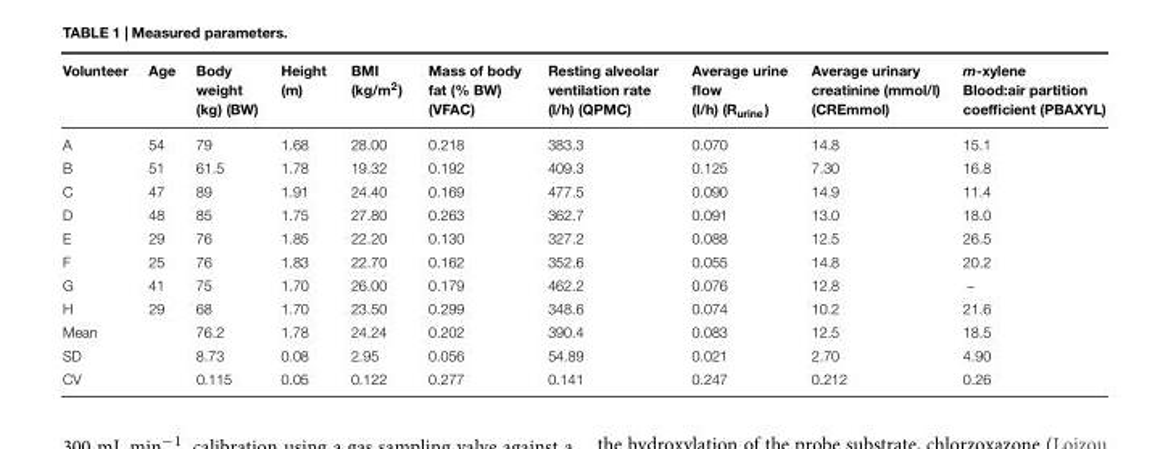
<table><thead><tr><td>Volunteer</td><td>Age</td><td>Body weight (kg) (BW)</td><td>Height (m)</td><td>BMI (kg/m<sup>2</sup>)</td><td>Mass of body fat (% BW) (VFAC)</td><td>Resting alveolar ventilation rate (l/h) (QPMC)</td><td>Average urine flow (l/h) (R<sub>urine</sub>)</td><td>Average urinary creatinine (mmol/l) (CREmmol)</td><td>m-xylene Blood:air partition coefficient (PBAXYL)</td></tr></thead><tbody><tr><td>A</td><td>54</td><td>79</td><td>1.68</td><td>28.00</td><td>0.218</td><td>383.3</td><td>0.070</td><td>14.8</td><td>15.1</td></tr><tr><td>B</td><td>51</td><td>61.5</td><td>1.78</td><td>19.32</td><td>0.192</td><td>409.3</td><td>0.125</td><td>7.30</td><td>16.8</td></tr><tr><td>C</td><td>47</td><td>89</td><td>1.91</td><td>24.40</td><td>0.169</td><td>477.5</td><td>0.090</td><td>14.9</td><td>11.4</td></tr><tr><td>D</td><td>48</td><td>85</td><td>1.75</td><td>27.80</td><td>0.263</td><td>362.7</td><td>0.091</td><td>13.0</td><td>18.0</td></tr><tr><td>E</td><td>29</td><td>76</td><td>1.85</td><td>22.20</td><td>0.130</td><td>327.2</td><td>0.088</td><td>12.5</td><td>26.5</td></tr><tr><td>F</td><td>25</td><td>76</td><td>1.83</td><td>22.70</td><td>0.162</td><td>352.6</td><td>0.055</td><td>14.8</td><td>20.2</td></tr><tr><td>G</td><td>41</td><td>75</td><td>1.70</td><td>26.00</td><td>0.179</td><td>462.2</td><td>0.076</td><td>12.8</td><td>–</td></tr><tr><td>H</td><td>29</td><td>68</td><td>1.70</td><td>23.50</td><td>0.299</td><td>348.6</td><td>0.074</td><td>10.2</td><td>21.6</td></tr><tr><td>Mean</td><td></td><td>76.2</td><td>1.78</td><td>24.24</td><td>0.202</td><td>390.4</td><td>0.083</td><td>12.5</td><td>18.5</td></tr><tr><td>SD</td><td></td><td>8.73</td><td>0.08</td><td>2.95</td><td>0.056</td><td>54.89</td><td>0.021</td><td>2.70</td><td>4.90</td></tr><tr><td>CV</td><td></td><td>0.115</td><td>0.05</td><td>0.122</td><td>0.277</td><td>0.141</td><td>0.247</td><td>0.212</td><td>0.26</td></tr></tbody></table>